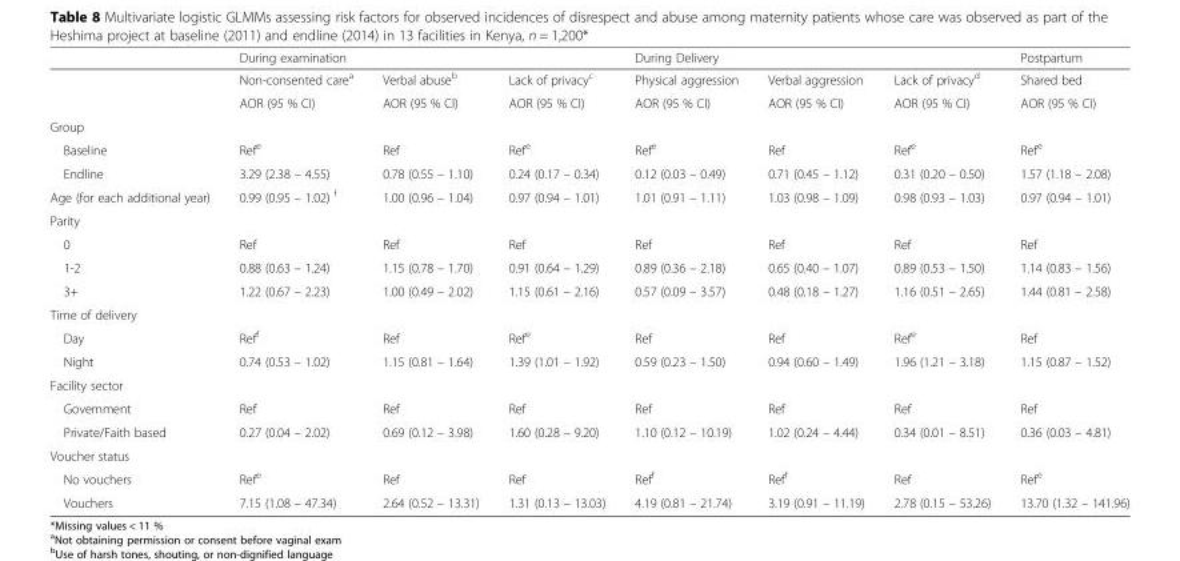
<table><thead><tr><td rowspan="2"></td><td colspan="3">During examination</td><td colspan="3">During Delivery</td><td rowspan="2">Postpartum Shared bed</td></tr><tr><td>Non-consented care<sup>a</sup></td><td>Verbal abuse<sup>b</sup></td><td>Lack of privacy<sup>c</sup></td><td>Physical aggression</td><td>Verbal aggression</td><td>Lack of privacy<sup>d</sup></td></tr></thead><tbody><tr><td></td><td>AOR (95 % CI)</td><td>AOR (95 % CI)</td><td>AOR (95 % CI)</td><td>AOR (95 % CI)</td><td>AOR (95 % CI)</td><td>AOR (95 % CI)</td><td>AOR (95 % CI)</td></tr><tr><td colspan="8">Group</td></tr><tr><td>Baseline</td><td>Ref<sup>e</sup></td><td>Ref</td><td>Ref<sup>e</sup></td><td>Ref<sup>e</sup></td><td>Ref</td><td>Ref<sup>e</sup></td><td>Ref<sup>e</sup></td></tr><tr><td>Endline</td><td>3.29 (2.38 – 4.55)</td><td>0.78 (0.55 – 1.10)</td><td>0.24 (0.17 – 0.34)</td><td>0.12 (0.03 – 0.49)</td><td>0.71 (0.45 – 1.12)</td><td>0.31 (0.20 – 0.50)</td><td>1.57 (1.18 – 2.08)</td></tr><tr><td>Age (for each additional year)</td><td>0.99 (0.95 – 1.02) <sup>f</sup></td><td>1.00 (0.96 – 1.04)</td><td>0.97 (0.94 – 1.01)</td><td>1.01 (0.91 – 1.11)</td><td>1.03 (0.98 – 1.09)</td><td>0.98 (0.93 – 1.03)</td><td>0.97 (0.94 – 1.01)</td></tr><tr><td colspan="8">Parity</td></tr><tr><td>0</td><td>Ref</td><td>Ref</td><td>Ref</td><td>Ref</td><td>Ref</td><td>Ref</td><td>Ref</td></tr><tr><td>1-2</td><td>0.88 (0.63 – 1.24)</td><td>1.15 (0.78 – 1.70)</td><td>0.91 (0.64 – 1.29)</td><td>0.89 (0.36 – 2.18)</td><td>0.65 (0.40 – 1.07)</td><td>0.89 (0.53 – 1.50)</td><td>1.14 (0.83 – 1.56)</td></tr><tr><td>3+</td><td>1.22 (0.67 – 2.23)</td><td>1.00 (0.49 – 2.02)</td><td>1.15 (0.61 – 2.16)</td><td>0.57 (0.09 – 3.57)</td><td>0.48 (0.18 – 1.27)</td><td>1.16 (0.51 – 2.65)</td><td>1.44 (0.81 – 2.58)</td></tr><tr><td colspan="8">Time of delivery</td></tr><tr><td>Day</td><td>Ref<sup>f</sup></td><td>Ref</td><td>Ref<sup>e</sup></td><td>Ref</td><td>Ref</td><td>Ref<sup>e</sup></td><td>Ref</td></tr><tr><td>Night</td><td>0.74 (0.53 – 1.02)</td><td>1.15 (0.81 – 1.64)</td><td>1.39 (1.01 – 1.92)</td><td>0.59 (0.23 – 1.50)</td><td>0.94 (0.60 – 1.49)</td><td>1.96 (1.21 – 3.18)</td><td>1.15 (0.87 – 1.52)</td></tr><tr><td colspan="8">Facility sector</td></tr><tr><td>Government</td><td>Ref</td><td>Ref</td><td>Ref</td><td>Ref</td><td>Ref</td><td>Ref</td><td>Ref</td></tr><tr><td>Private/Faith based</td><td>0.27 (0.04 – 2.02)</td><td>0.69 (0.12 – 3.98)</td><td>1.60 (0.28 – 9.20)</td><td>1.10 (0.12 – 10.19)</td><td>1.02 (0.24 – 4.44)</td><td>0.34 (0.01 – 8.51)</td><td>0.36 (0.03 – 4.81)</td></tr><tr><td colspan="8">Voucher status</td></tr><tr><td>No vouchers</td><td>Ref<sup>e</sup></td><td>Ref</td><td>Ref</td><td>Ref<sup>f</sup></td><td>Ref<sup>f</sup></td><td>Ref</td><td>Ref<sup>e</sup></td></tr><tr><td>Vouchers</td><td>7.15 (1.08 – 47.34)</td><td>2.64 (0.52 – 13.31)</td><td>1.31 (0.13 – 13.03)</td><td>4.19 (0.81 – 21.74)</td><td>3.19 (0.91 – 11.19)</td><td>2.78 (0.15 – 53.26)</td><td>13.70 (1.32 – 141.96)</td></tr></tbody></table>